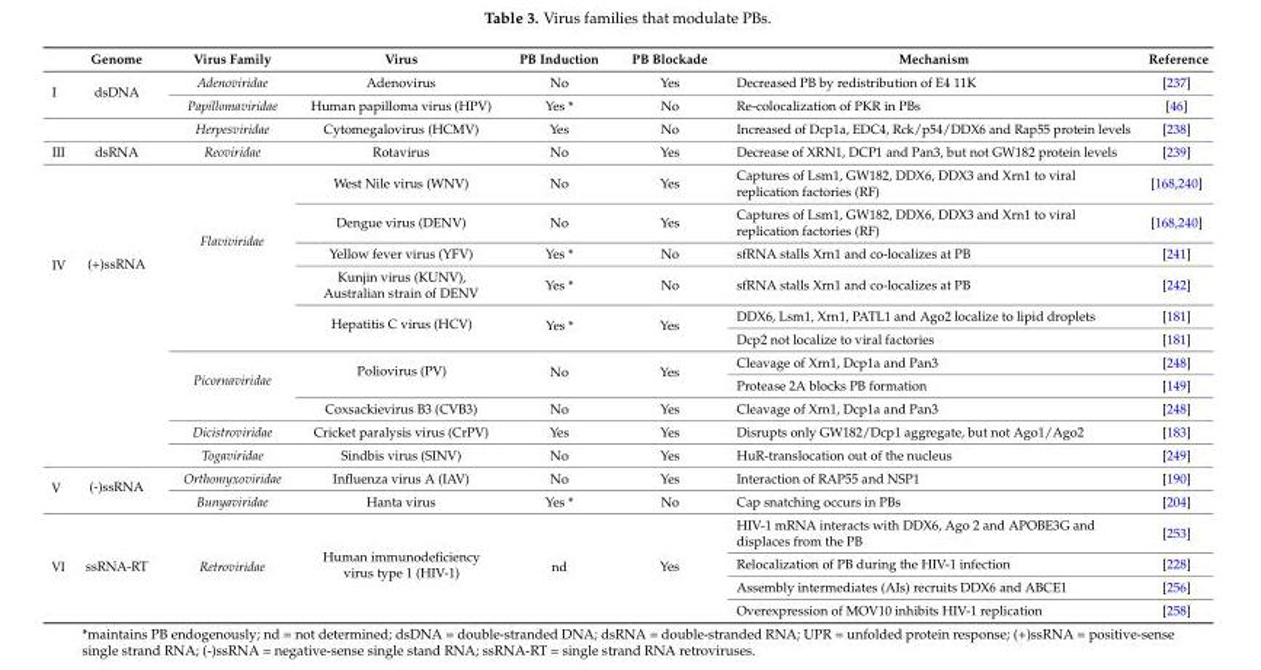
<table><thead><tr><td></td><td>Genome</td><td>Virus Family</td><td>Virus</td><td>PB Induction</td><td>PB Blockade</td><td>Mechanism</td><td>Reference</td></tr></thead><tbody><tr><td rowspan="3">I</td><td rowspan="2">dsDNA</td><td>Adenoviridae</td><td>Adenovirus</td><td>No</td><td>Yes</td><td>Decreased PB by redistribution of E4 11K</td><td>[237]</td></tr><tr><td>Papillomaviridae</td><td>Human papilloma virus (HPV)</td><td>Yes *</td><td>No</td><td>Re-colocalization of PKR in PBs</td><td>[46]</td></tr><tr><td></td><td>Herpesviridae</td><td>Cytomegalovirus (HCMV)</td><td>Yes</td><td>No</td><td>Increased of Dcp1a, EDC4, Rck/p54/DDX6 and Rap55 protein levels</td><td>[238]</td></tr><tr><td>III</td><td>dsRNA</td><td>Reoviridae</td><td>Rotavirus</td><td>No</td><td>Yes</td><td>Decrease of XRN1, DCP1 and Pan3, but not GW182 protein levels</td><td>[239]</td></tr><tr><td rowspan="11">IV</td><td rowspan="11">(+)ssRNA</td><td rowspan="6">Flaviviridae</td><td>West Nile virus (WNV)</td><td>No</td><td>Yes</td><td>Captures of Lsm1, GW182, DDX6, DDX3 and Xrn1 to viral replication factories (RF)</td><td>[168,240]</td></tr><tr><td>Dengue virus (DENV)</td><td>No</td><td>Yes</td><td>Captures of Lsm1, GW182, DDX6, DDX3 and Xrn1 to viral replication factories (RF)</td><td>[168,240]</td></tr><tr><td>Yellow fever virus (YFV)</td><td>Yes *</td><td>No</td><td>sfRNA stalls Xrn1 and co-localizes at PB</td><td>[241]</td></tr><tr><td>Kunjin virus (KUNV), Australian strain of DENV</td><td>Yes *</td><td>No</td><td>sfRNA stalls Xrn1 and co-localizes at PB</td><td>[242]</td></tr><tr><td rowspan="2">Hepatitis C virus (HCV)</td><td rowspan="2">Yes *</td><td rowspan="2">Yes</td><td>DDX6, Lsm1, Xrn1, PATL1 and Ago2 localize to lipid droplets</td><td>[181]</td></tr><tr><td>Dcp2 not localize to viral factories</td><td>[181]</td></tr><tr><td rowspan="3">Picornaviridae</td><td rowspan="2">Poliovirus (PV)</td><td rowspan="2">No</td><td rowspan="2">Yes</td><td>Cleavage of Xrn1, Dcp1a and Pan3</td><td>[248]</td></tr><tr><td>Protease 2A blocks PB formation</td><td>[149]</td></tr><tr><td>Coxsackievirus B3 (CVB3)</td><td>No</td><td>Yes</td><td>Cleavage of Xrn1, Dcp1a and Pan3</td><td>[248]</td></tr><tr><td>Dicistroviridae</td><td>Cricket paralysis virus (CrPV)</td><td>Yes</td><td>Yes</td><td>Disrupts only GW182/Dcp1 aggregate, but not Ago1/Ago2</td><td>[183]</td></tr><tr><td>Togaviridae</td><td>Sindbis virus (SINV)</td><td>No</td><td>Yes</td><td>HuR-translocation out of the nucleus</td><td>[249]</td></tr><tr><td rowspan="2">V</td><td rowspan="2">(-)ssRNA</td><td>Orthomyxoviridae</td><td>Influenza virus A (IAV)</td><td>No</td><td>Yes</td><td>Interaction of RAP55 and NSP1</td><td>[190]</td></tr><tr><td>Bunyaviridae</td><td>Hanta virus</td><td>Yes *</td><td>No</td><td>Cap snatching occurs in PBs</td><td>[204]</td></tr><tr><td rowspan="4">VI</td><td rowspan="4">ssRNA-RT</td><td rowspan="4">Retroviridae</td><td rowspan="4">Human immunodeficiency virus type 1 (HIV-1)</td><td rowspan="4">nd</td><td rowspan="4">Yes</td><td>HIV-1 mRNA interacts with DDX6, Ago 2 and APOBE3G and displaces from the PB</td><td>[253]</td></tr><tr><td>Relocalization of PB during the HIV-1 infection</td><td>[228]</td></tr><tr><td>Assembly intermediates (AIs) recruits DDX6 and ABCE1</td><td>[256]</td></tr><tr><td>Overexpression of MOV10 inhibits HIV-1 replication</td><td>[258]</td></tr></tbody></table>